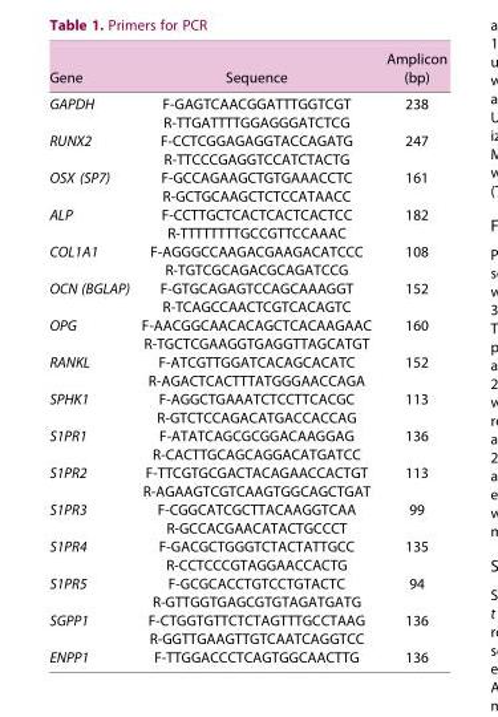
<table><thead><tr><td>Gene</td><td>Sequence</td><td>Amplicon (bp)</td></tr></thead><tbody><tr><td rowspan="2">GAPDH</td><td>F-GAGTCAACGGATTTGGTCGT</td><td>238</td></tr><tr><td>R-TTGATTTTGGAGGGATCTCG</td><td></td></tr><tr><td rowspan="2">RUNX2</td><td>F-CCTCGGAGAGGTACCAGATG</td><td>247</td></tr><tr><td>R-TTCCCGAGGTCCATCTACTG</td><td></td></tr><tr><td rowspan="2">OSX (SP7)</td><td>F-GCCAGAAGCTGTGAAACCTC</td><td>161</td></tr><tr><td>R-GCTGCAAGCTCTCCATAACC</td><td></td></tr><tr><td rowspan="2">ALP</td><td>F-CCTTGCTCACTCACTCACTCC</td><td>182</td></tr><tr><td>R-TTTTTTTTGCCGTTCCAAAC</td><td></td></tr><tr><td rowspan="2">COL1A1</td><td>F-AGGGCCAAGACGAAGACATCCC</td><td>108</td></tr><tr><td>R-TGTCGCAGACGCAGATCCG</td><td></td></tr><tr><td rowspan="2">OCN (BGLAP)</td><td>F-GTGCAGAGTCCAGCAAAGGT</td><td>152</td></tr><tr><td>R-TCAGCCAACTCGTCACAGTC</td><td></td></tr><tr><td rowspan="2">OPG</td><td>F-AACGGCAACACAGCTCACAAGAAC</td><td>160</td></tr><tr><td>R-TGCTCGAAGGTGAGGTTAGCATGT</td><td></td></tr><tr><td rowspan="2">RANKL</td><td>F-ATCGTTGGATCACAGCACATC</td><td>152</td></tr><tr><td>R-AGACTCACTTTATGGGAACCAGA</td><td></td></tr><tr><td rowspan="2">SPHK1</td><td>F-AGGCTGAAATCTCCTTCACGC</td><td>113</td></tr><tr><td>R-GTCTCCAGACATGACCACCAG</td><td></td></tr><tr><td rowspan="2">S1PR1</td><td>F-ATATCAGCGCGGACAAGGAG</td><td>136</td></tr><tr><td>R-CACTTGCAGCAGGACATGATCC</td><td></td></tr><tr><td rowspan="2">S1PR2</td><td>F-TTCGTGCGACTACAGAACCACTGT</td><td>113</td></tr><tr><td>R-AGAAGTCGTCAAGTGGCAGCTGAT</td><td></td></tr><tr><td rowspan="2">S1PR3</td><td>F-CGGCATCGCTTACAAGGTCAA</td><td>99</td></tr><tr><td>R-GCCACGAACATACTGCCCT</td><td></td></tr><tr><td rowspan="2">S1PR4</td><td>F-GACGCTGGGTCTACTATTGCC</td><td>135</td></tr><tr><td>R-CCTCCCGTAGGAACCACTG</td><td></td></tr><tr><td rowspan="2">S1PR5</td><td>F-GCGCACCTGTCCTGTACTC</td><td>94</td></tr><tr><td>R-GTTGGTGAGCGTGTAGATGATG</td><td></td></tr><tr><td rowspan="2">SGPP1</td><td>F-CTGGTGTTCTCTAGTTTGCCTAAG</td><td>136</td></tr><tr><td>R-GGTTGAAGTTGTCAATCAGGTCC</td><td></td></tr><tr><td>ENPP1</td><td>F-TTGGACCCTCAGTGGCAACTTG</td><td>136</td></tr></tbody></table>